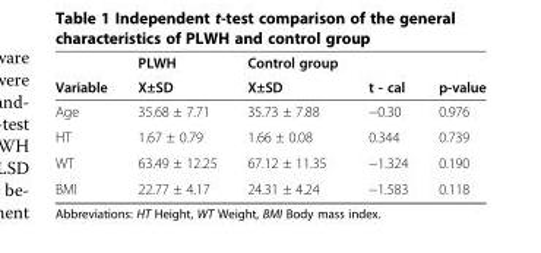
<table><thead><tr><td rowspan="2">Variable</td><td rowspan="2">PLWH X±SD</td><td rowspan="2">Control group X±SD</td><td rowspan="2">t - cal</td><td rowspan="2">p-value</td></tr><tr></tr></thead><tbody><tr><td>Age</td><td>35.68 ± 7.71</td><td>35.73 ± 7.88</td><td>−0.30</td><td>0.976</td></tr><tr><td>HT</td><td>1.67 ± 0.79</td><td>1.66 ± 0.08</td><td>0.344</td><td>0.739</td></tr><tr><td>WT</td><td>63.49 ± 12.25</td><td>67.12 ± 11.35</td><td>−1.324</td><td>0.190</td></tr><tr><td>BMI</td><td>22.77 ± 4.17</td><td>24.31 ± 4.24</td><td>−1.583</td><td>0.118</td></tr></tbody></table>